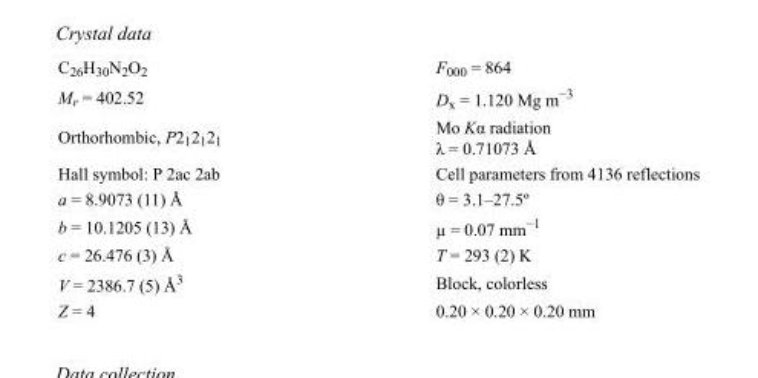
<table><tbody><tr><td>C<sub>26</sub>H<sub>30</sub>N<sub>2</sub>O<sub>2</sub></td><td>F<sub>000</sub> = 864</td></tr><tr><td>M<sub>r</sub> = 402.52</td><td>D<sub>x</sub> = 1.120 Mg m<sup>−3</sup></td></tr><tr><td>Orthorhombic, P2<sub>1</sub>2<sub>1</sub>2<sub>1</sub></td><td>Mo Kα radiation λ = 0.71073 Å</td></tr><tr><td>Hall symbol: P 2ac 2ab</td><td>Cell parameters from 4136 reflections</td></tr><tr><td>a = 8.9073 (11) Å</td><td>θ = 3.1–27.5º</td></tr><tr><td>b = 10.1205 (13) Å</td><td>µ = 0.07 mm<sup>−1</sup></td></tr><tr><td>c = 26.476 (3) Å</td><td>T = 293 (2) K</td></tr><tr><td>V = 2386.7 (5) Å<sup>3</sup></td><td>Block, colorless</td></tr><tr><td>Z = 4</td><td>0.20 × 0.20 × 0.20 mm</td></tr></tbody></table>